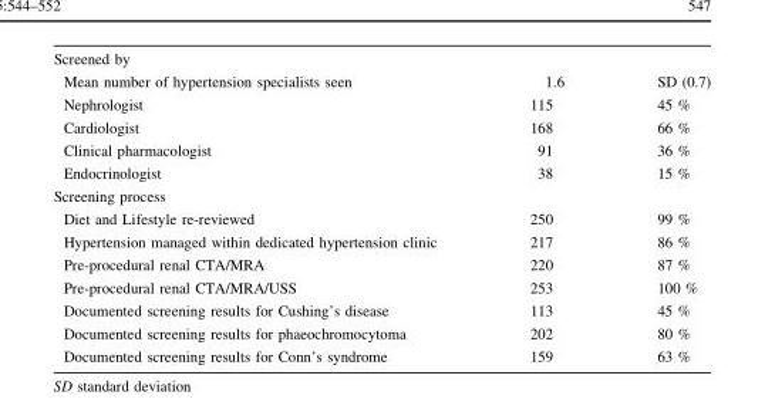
<table><tbody><tr><td colspan="3">Screened by</td></tr><tr><td>Mean number of hypertension specialists seen</td><td>1.6</td><td>SD (0.7)</td></tr><tr><td>Nephrologist</td><td>115</td><td>45 %</td></tr><tr><td>Cardiologist</td><td>168</td><td>66 %</td></tr><tr><td>Clinical pharmacologist</td><td>91</td><td>36 %</td></tr><tr><td>Endocrinologist</td><td>38</td><td>15 %</td></tr><tr><td colspan="3">Screening process</td></tr><tr><td>Diet and Lifestyle re-reviewed</td><td>250</td><td>99 %</td></tr><tr><td>Hypertension managed within dedicated hypertension clinic</td><td>217</td><td>86 %</td></tr><tr><td>Pre-procedural renal CTA/MRA</td><td>220</td><td>87 %</td></tr><tr><td>Pre-procedural renal CTA/MRA/USS</td><td>253</td><td>100 %</td></tr><tr><td>Documented screening results for Cushing’s disease</td><td>113</td><td>45 %</td></tr><tr><td>Documented screening results for phaeochromocytoma</td><td>202</td><td>80 %</td></tr><tr><td>Documented screening results for Conn’s syndrome</td><td>159</td><td>63 %</td></tr></tbody></table>